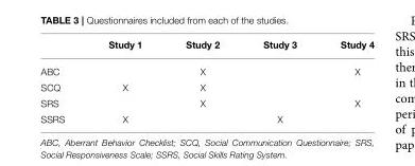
<table><thead><tr><td></td><td>Study 1</td><td>Study 2</td><td>Study 3</td><td>Study 4</td></tr></thead><tbody><tr><td>ABC</td><td></td><td>X</td><td></td><td>X</td></tr><tr><td>SCQ</td><td>X</td><td>X</td><td></td><td></td></tr><tr><td>SRS</td><td></td><td>X</td><td></td><td>X</td></tr><tr><td>SSRS</td><td>X</td><td></td><td>X</td><td></td></tr></tbody></table>